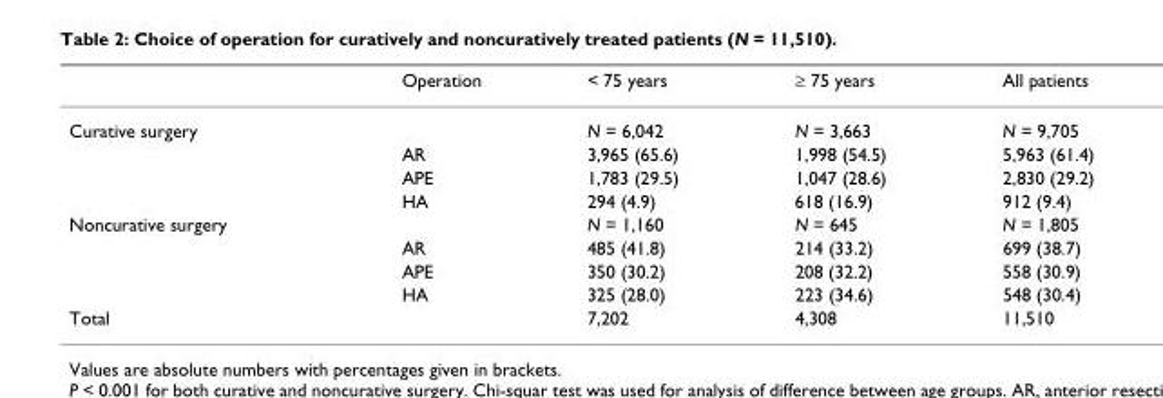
<table><thead><tr><td></td><td>Operation</td><td>&lt; 75 years</td><td>≥ 75 years</td><td>All patients</td></tr></thead><tbody><tr><td rowspan="4">Curative surgery</td><td></td><td>N = 6,042</td><td>N = 3,663</td><td>N = 9,705</td></tr><tr><td>AR</td><td>3,965 (65.6)</td><td>1,998 (54.5)</td><td>5,963 (61.4)</td></tr><tr><td>APE</td><td>1,783 (29.5)</td><td>1,047 (28.6)</td><td>2,830 (29.2)</td></tr><tr><td>HA</td><td>294 (4.9)</td><td>618 (16.9)</td><td>912 (9.4)</td></tr><tr><td rowspan="4">Noncurative surgery</td><td></td><td>N = 1,160</td><td>N = 645</td><td>N = 1,805</td></tr><tr><td>AR</td><td>485 (41.8)</td><td>214 (33.2)</td><td>699 (38.7)</td></tr><tr><td>APE</td><td>350 (30.2)</td><td>208 (32.2)</td><td>558 (30.9)</td></tr><tr><td>HA</td><td>325 (28.0)</td><td>223 (34.6)</td><td>548 (30.4)</td></tr><tr><td>Total</td><td></td><td>7,202</td><td>4,308</td><td>11,510</td></tr></tbody></table>